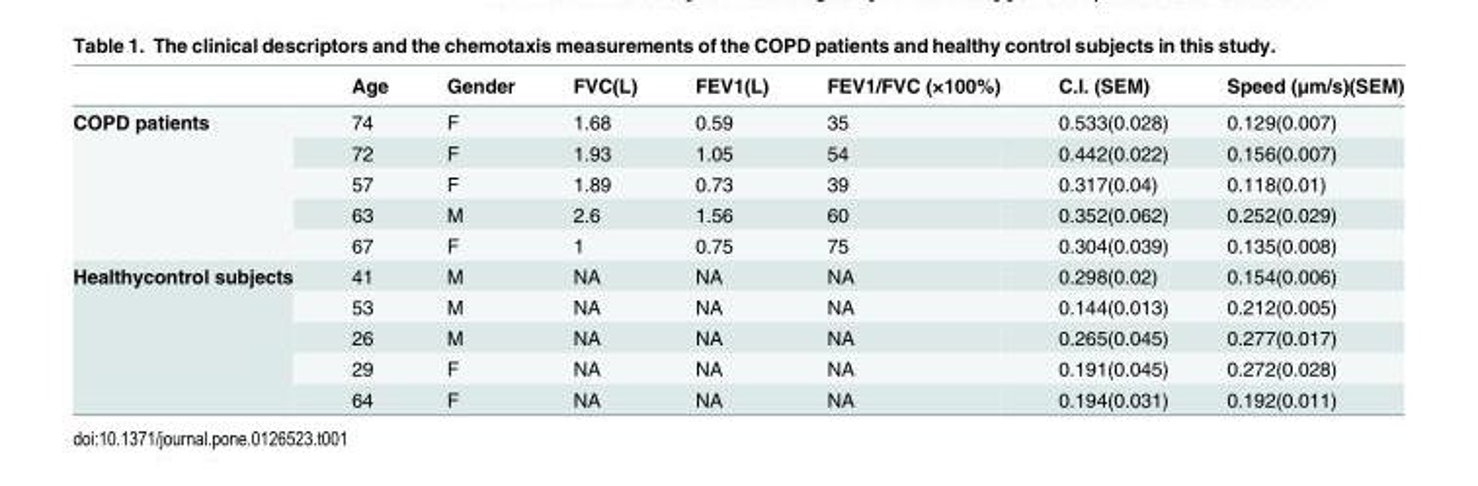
<table><thead><tr><td></td><td>Age</td><td>Gender</td><td>FVC(L)</td><td>FEV1(L)</td><td>FEV1/FVC (×100%)</td><td>C.I. (SEM)</td><td>Speed (μm/s)(SEM)</td></tr></thead><tbody><tr><td rowspan="5">COPD patients</td><td>74</td><td>F</td><td>1.68</td><td>0.59</td><td>35</td><td>0.533(0.028)</td><td>0.129(0.007)</td></tr><tr><td>72</td><td>F</td><td>1.93</td><td>1.05</td><td>54</td><td>0.442(0.022)</td><td>0.156(0.007)</td></tr><tr><td>57</td><td>F</td><td>1.89</td><td>0.73</td><td>39</td><td>0.317(0.04)</td><td>0.118(0.01)</td></tr><tr><td>63</td><td>M</td><td>2.6</td><td>1.56</td><td>60</td><td>0.352(0.062)</td><td>0.252(0.029)</td></tr><tr><td>67</td><td>F</td><td>1</td><td>0.75</td><td>75</td><td>0.304(0.039)</td><td>0.135(0.008)</td></tr><tr><td rowspan="5">Healthycontrol subjects</td><td>41</td><td>M</td><td>NA</td><td>NA</td><td>NA</td><td>0.298(0.02)</td><td>0.154(0.006)</td></tr><tr><td>53</td><td>M</td><td>NA</td><td>NA</td><td>NA</td><td>0.144(0.013)</td><td>0.212(0.005)</td></tr><tr><td>26</td><td>M</td><td>NA</td><td>NA</td><td>NA</td><td>0.265(0.045)</td><td>0.277(0.017)</td></tr><tr><td>29</td><td>F</td><td>NA</td><td>NA</td><td>NA</td><td>0.191(0.045)</td><td>0.272(0.028)</td></tr><tr><td>64</td><td>F</td><td>NA</td><td>NA</td><td>NA</td><td>0.194(0.031)</td><td>0.192(0.011)</td></tr></tbody></table>